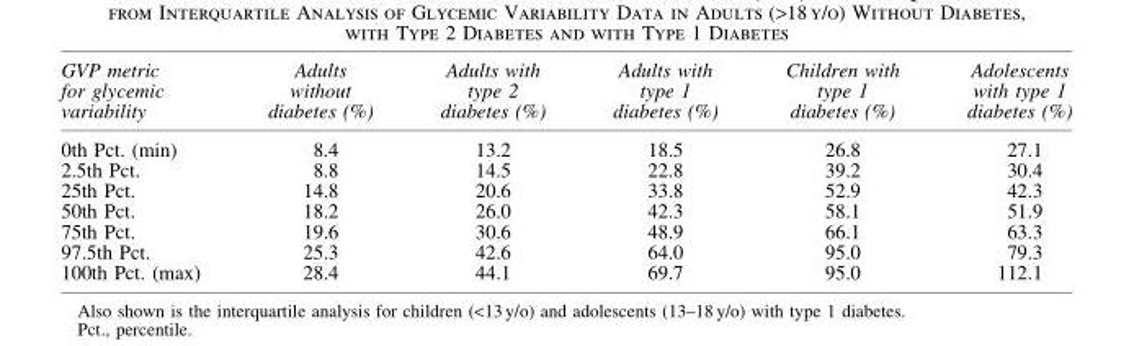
<table><thead><tr><td>GVP metric for glycemic variability</td><td>Adults without diabetes (%)</td><td>Adults with type 2 diabetes (%)</td><td>Adults with type 1 diabetes (%)</td><td>Children with type 1 diabetes (%)</td><td>Adolescents with type 1 diabetes (%)</td></tr></thead><tbody><tr><td>0th Pct. (min)</td><td>8.4</td><td>13.2</td><td>18.5</td><td>26.8</td><td>27.1</td></tr><tr><td>2.5th Pct.</td><td>8.8</td><td>14.5</td><td>22.8</td><td>39.2</td><td>30.4</td></tr><tr><td>25th Pct.</td><td>14.8</td><td>20.6</td><td>33.8</td><td>52.9</td><td>42.3</td></tr><tr><td>50th Pct.</td><td>18.2</td><td>26.0</td><td>42.3</td><td>58.1</td><td>51.9</td></tr><tr><td>75th Pct.</td><td>19.6</td><td>30.6</td><td>48.9</td><td>66.1</td><td>63.3</td></tr><tr><td>97.5th Pct.</td><td>25.3</td><td>42.6</td><td>64.0</td><td>95.0</td><td>79.3</td></tr><tr><td>100th Pct. (max)</td><td>28.4</td><td>44.1</td><td>69.7</td><td>95.0</td><td>112.1</td></tr></tbody></table>